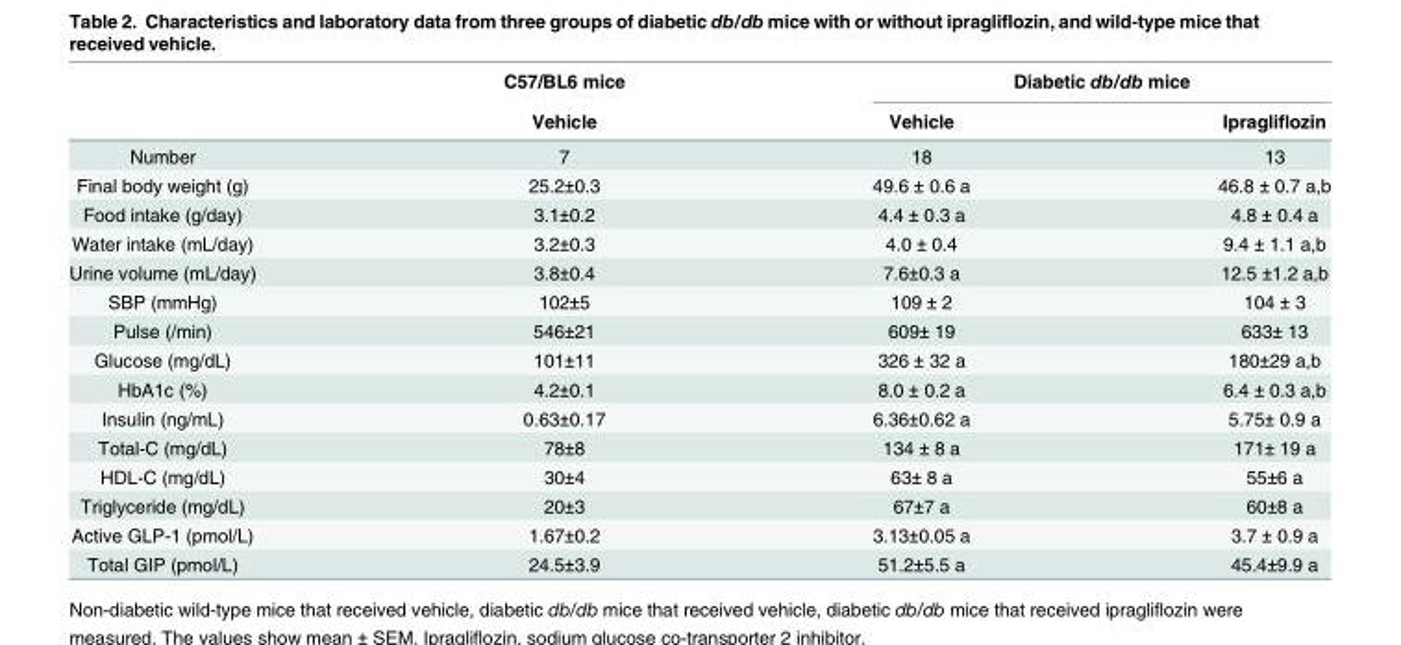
<table><thead><tr><td rowspan="2"></td><td rowspan="2">C57/BL6 mice Vehicle</td><td colspan="2">Diabetic db/db mice</td></tr><tr><td>Vehicle</td><td>Ipragliflozin</td></tr></thead><tbody><tr><td>Number</td><td>7</td><td>18</td><td>13</td></tr><tr><td>Final body weight (g)</td><td>25.2±0.3</td><td>49.6 ± 0.6 a</td><td>46.8 ± 0.7 a,b</td></tr><tr><td>Food intake (g/day)</td><td>3.1±0.2</td><td>4.4 ± 0.3 a</td><td>4.8 ± 0.4 a</td></tr><tr><td>Water intake (mL/day)</td><td>3.2±0.3</td><td>4.0 ± 0.4</td><td>9.4 ± 1.1 a,b</td></tr><tr><td>Urine volume (mL/day)</td><td>3.8±0.4</td><td>7.6±0.3 a</td><td>12.5 ±1.2 a,b</td></tr><tr><td>SBP (mmHg)</td><td>102±5</td><td>109 ± 2</td><td>104 ± 3</td></tr><tr><td>Pulse (/min)</td><td>546±21</td><td>609± 19</td><td>633± 13</td></tr><tr><td>Glucose (mg/dL)</td><td>101±11</td><td>326 ± 32 a</td><td>180±29 a,b</td></tr><tr><td>HbA1c (%)</td><td>4.2±0.1</td><td>8.0 ± 0.2 a</td><td>6.4 ± 0.3 a,b</td></tr><tr><td>Insulin (ng/mL)</td><td>0.63±0.17</td><td>6.36±0.62 a</td><td>5.75± 0.9 a</td></tr><tr><td>Total-C (mg/dL)</td><td>78±8</td><td>134 ± 8 a</td><td>171± 19 a</td></tr><tr><td>HDL-C (mg/dL)</td><td>30±4</td><td>63± 8 a</td><td>55±6 a</td></tr><tr><td>Triglyceride (mg/dL)</td><td>20±3</td><td>67±7 a</td><td>60±8 a</td></tr><tr><td>Active GLP-1 (pmol/L)</td><td>1.67±0.2</td><td>3.13±0.05 a</td><td>3.7 ± 0.9 a</td></tr><tr><td>Total GIP (pmol/L)</td><td>24.5±3.9</td><td>51.2±5.5 a</td><td>45.4±9.9 a</td></tr></tbody></table>